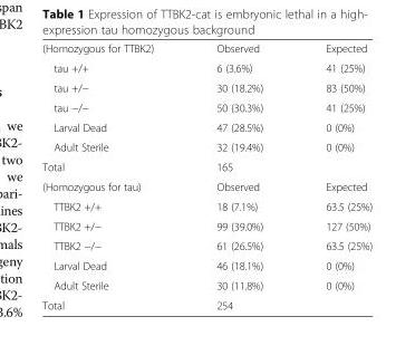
<table><tbody><tr><td>(Homozygous for TTBK2)</td><td>Observed</td><td>Expected</td></tr><tr><td>tau +/+</td><td>6 (3.6%)</td><td>41 (25%)</td></tr><tr><td>tau +/−</td><td>30 (18.2%)</td><td>83 (50%)</td></tr><tr><td>tau −/−</td><td>50 (30.3%)</td><td>41 (25%)</td></tr><tr><td>Larval Dead</td><td>47 (28.5%)</td><td>0 (0%)</td></tr><tr><td>Adult Sterile</td><td>32 (19.4%)</td><td>0 (0%)</td></tr><tr><td>Total</td><td>165</td><td></td></tr><tr><td>(Homozygous for tau)</td><td>Observed</td><td>Expected</td></tr><tr><td>TTBK2 +/+</td><td>18 (7.1%)</td><td>63.5 (25%)</td></tr><tr><td>TTBK2 +/−</td><td>99 (39.0%)</td><td>127 (50%)</td></tr><tr><td>TTBK2 −/−</td><td>61 (26.5%)</td><td>63.5 (25%)</td></tr><tr><td>Larval Dead</td><td>46 (18.1%)</td><td>0 (0%)</td></tr><tr><td>Adult Sterile</td><td>30 (11.8%)</td><td>0 (0%)</td></tr><tr><td>Total</td><td>254</td><td></td></tr></tbody></table>